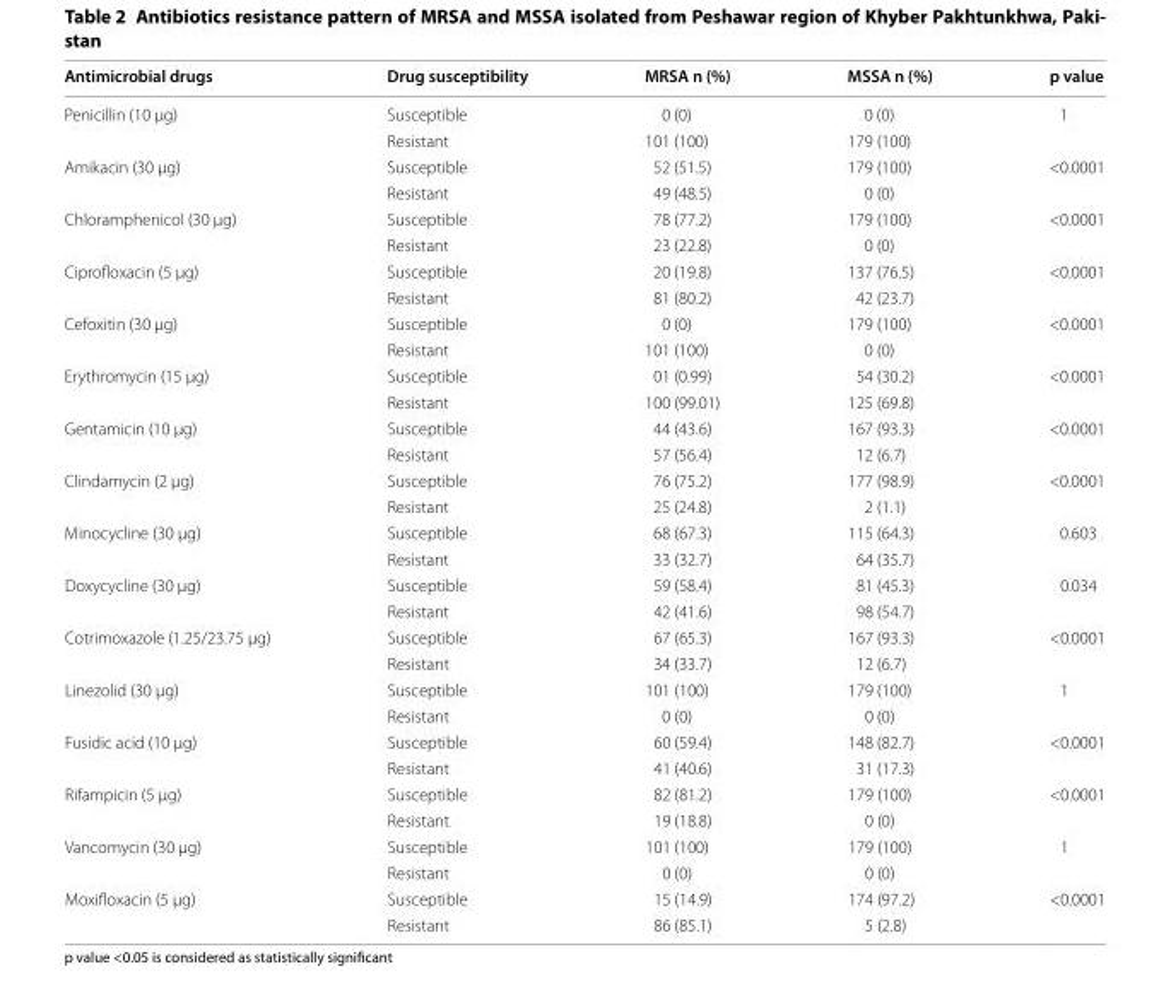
<table><thead><tr><td>Antimicrobial drugs</td><td>Drug susceptibility</td><td>MRSA n (%)</td><td>MSSA n (%)</td><td>p value</td></tr></thead><tbody><tr><td rowspan="2">Penicillin (10 µg)</td><td>Susceptible</td><td>0 (0)</td><td>0 (0)</td><td>1</td></tr><tr><td>Resistant</td><td>101 (100)</td><td>179 (100)</td><td></td></tr><tr><td rowspan="2">Amikacin (30 µg)</td><td>Susceptible</td><td>52 (51.5)</td><td>179 (100)</td><td>&lt;0.0001</td></tr><tr><td>Resistant</td><td>49 (48.5)</td><td>0 (0)</td><td></td></tr><tr><td rowspan="2">Chloramphenicol (30 µg)</td><td>Susceptible</td><td>78 (77.2)</td><td>179 (100)</td><td>&lt;0.0001</td></tr><tr><td>Resistant</td><td>23 (22.8)</td><td>0 (0)</td><td></td></tr><tr><td rowspan="2">Ciprofloxacin (5 µg)</td><td>Susceptible</td><td>20 (19.8)</td><td>137 (76.5)</td><td>&lt;0.0001</td></tr><tr><td>Resistant</td><td>81 (80.2)</td><td>42 (23.7)</td><td></td></tr><tr><td rowspan="2">Cefoxitin (30 µg)</td><td>Susceptible</td><td>0 (0)</td><td>179 (100)</td><td>&lt;0.0001</td></tr><tr><td>Resistant</td><td>101 (100)</td><td>0 (0)</td><td></td></tr><tr><td rowspan="2">Erythromycin (15 µg)</td><td>Susceptible</td><td>01 (0.99)</td><td>54 (30.2)</td><td>&lt;0.0001</td></tr><tr><td>Resistant</td><td>100 (99.01)</td><td>125 (69.8)</td><td></td></tr><tr><td rowspan="2">Gentamicin (10 µg)</td><td>Susceptible</td><td>44 (43.6)</td><td>167 (93.3)</td><td>&lt;0.0001</td></tr><tr><td>Resistant</td><td>57 (56.4)</td><td>12 (6.7)</td><td></td></tr><tr><td rowspan="2">Clindamycin (2 µg)</td><td>Susceptible</td><td>76 (75.2)</td><td>177 (98.9)</td><td>&lt;0.0001</td></tr><tr><td>Resistant</td><td>25 (24.8)</td><td>2 (1.1)</td><td></td></tr><tr><td rowspan="2">Minocycline (30 µg)</td><td>Susceptible</td><td>68 (67.3)</td><td>115 (64.3)</td><td>0.603</td></tr><tr><td>Resistant</td><td>33 (32.7)</td><td>64 (35.7)</td><td></td></tr><tr><td rowspan="2">Doxycycline (30 µg)</td><td>Susceptible</td><td>59 (58.4)</td><td>81 (45.3)</td><td>0.034</td></tr><tr><td>Resistant</td><td>42 (41.6)</td><td>98 (54.7)</td><td></td></tr><tr><td rowspan="2">Cotrimoxazole (1.25/23.75 µg)</td><td>Susceptible</td><td>67 (65.3)</td><td>167 (93.3)</td><td>&lt;0.0001</td></tr><tr><td>Resistant</td><td>34 (33.7)</td><td>12 (6.7)</td><td></td></tr><tr><td rowspan="2">Linezolid (30 µg)</td><td>Susceptible</td><td>101 (100)</td><td>179 (100)</td><td>1</td></tr><tr><td>Resistant</td><td>0 (0)</td><td>0 (0)</td><td></td></tr><tr><td rowspan="2">Fusidic acid (10 µg)</td><td>Susceptible</td><td>60 (59.4)</td><td>148 (82.7)</td><td>&lt;0.0001</td></tr><tr><td>Resistant</td><td>41 (40.6)</td><td>31 (17.3)</td><td></td></tr><tr><td rowspan="2">Rifampicin (5 µg)</td><td>Susceptible</td><td>82 (81.2)</td><td>179 (100)</td><td>&lt;0.0001</td></tr><tr><td>Resistant</td><td>19 (18.8)</td><td>0 (0)</td><td></td></tr><tr><td rowspan="2">Vancomycin (30 µg)</td><td>Susceptible</td><td>101 (100)</td><td>179 (100)</td><td>1</td></tr><tr><td>Resistant</td><td>0 (0)</td><td>0 (0)</td><td></td></tr><tr><td rowspan="2">Moxifloxacin (5 µg)</td><td>Susceptible</td><td>15 (14.9)</td><td>174 (97.2)</td><td>&lt;0.0001</td></tr><tr><td>Resistant</td><td>86 (85.1)</td><td>5 (2.8)</td><td></td></tr></tbody></table>